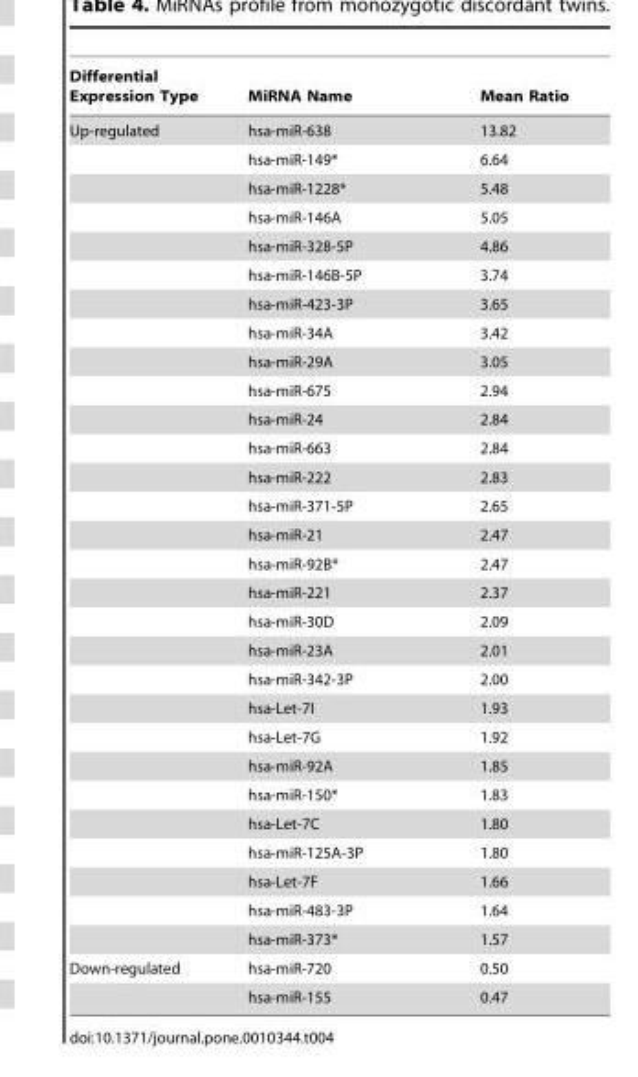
<table><thead><tr><td>Differential Expression Type</td><td>MiRNA Name</td><td>Mean Ratio</td></tr></thead><tbody><tr><td rowspan="29">Up-regulated</td><td>hsa-miR-638</td><td>13.82</td></tr><tr><td>hsa-miR-149*</td><td>6.64</td></tr><tr><td>hsa-miR-1228*</td><td>5.48</td></tr><tr><td>hsa-miR-146A</td><td>5.05</td></tr><tr><td>hsa-miR-328-5P</td><td>4.86</td></tr><tr><td>hsa-miR-146B-5P</td><td>3.74</td></tr><tr><td>hsa-miR-423-3P</td><td>3.65</td></tr><tr><td>hsa-miR-34A</td><td>3.42</td></tr><tr><td>hsa-miR-29A</td><td>3.05</td></tr><tr><td>hsa-miR-675</td><td>2.94</td></tr><tr><td>hsa-miR-24</td><td>2.84</td></tr><tr><td>hsa-miR-663</td><td>2.84</td></tr><tr><td>hsa-miR-222</td><td>2.83</td></tr><tr><td>hsa-miR-371-5P</td><td>2.65</td></tr><tr><td>hsa-miR-21</td><td>2.47</td></tr><tr><td>hsa-miR-92B*</td><td>2.47</td></tr><tr><td>hsa-miR-221</td><td>2.37</td></tr><tr><td>hsa-miR-30D</td><td>2.09</td></tr><tr><td>hsa-miR-23A</td><td>2.01</td></tr><tr><td>hsa-miR-342-3P</td><td>2.00</td></tr><tr><td>hsa-Let-7I</td><td>1.93</td></tr><tr><td>hsa-Let-7G</td><td>1.92</td></tr><tr><td>hsa-miR-92A</td><td>1.85</td></tr><tr><td>hsa-miR-150*</td><td>1.83</td></tr><tr><td>hsa-Let-7C</td><td>1.80</td></tr><tr><td>hsa-miR-125A-3P</td><td>1.80</td></tr><tr><td>hsa-Let-7F</td><td>1.66</td></tr><tr><td>hsa-miR-483-3P</td><td>1.64</td></tr><tr><td>hsa-miR-373*</td><td>1.57</td></tr><tr><td rowspan="2">Down-regulated</td><td>hsa-miR-720</td><td>0.50</td></tr><tr><td>hsa-miR-155</td><td>0.47</td></tr></tbody></table>